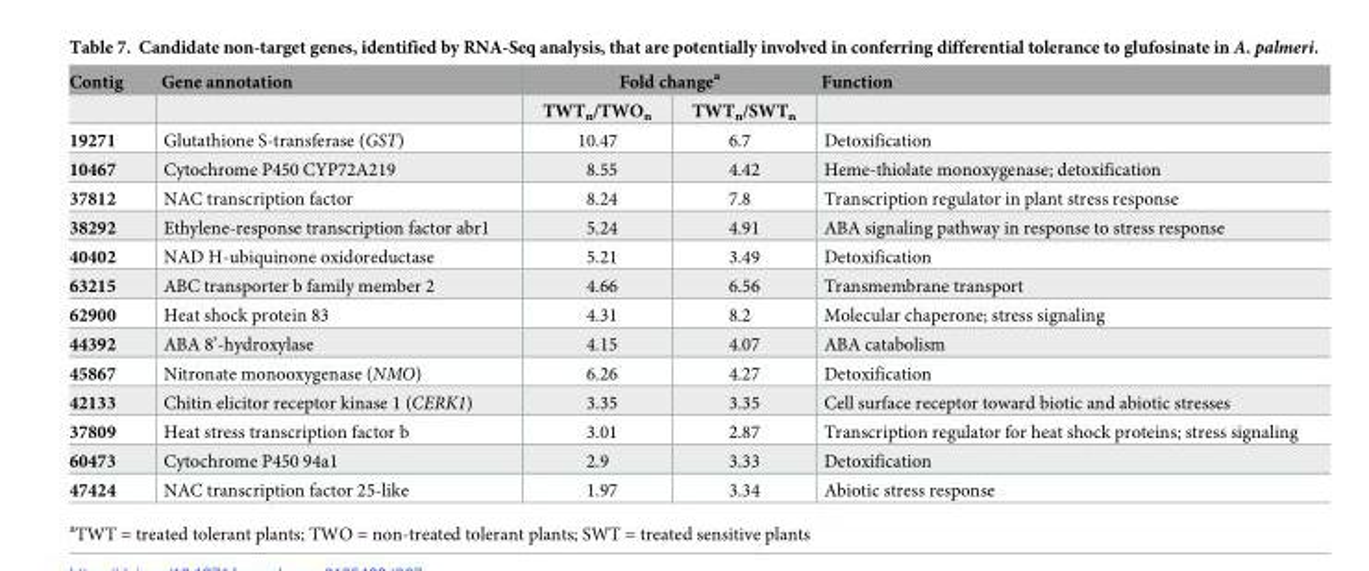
<table><thead><tr><td rowspan="2">Contig</td><td rowspan="2">Gene annotation</td><td colspan="2">Fold change<sup>a</sup></td><td rowspan="2">Function</td></tr><tr><td>TWT<sub>n</sub>/TWO<sub>n</sub></td><td>TWT<sub>n</sub>/SWT<sub>n</sub></td></tr></thead><tbody><tr><td>19271</td><td>Glutathione S-transferase (GST)</td><td>10.47</td><td>6.7</td><td>Detoxification</td></tr><tr><td>10467</td><td>Cytochrome P450 CYP72A219</td><td>8.55</td><td>4.42</td><td>Heme-thiolate monoxygenase; detoxification</td></tr><tr><td>37812</td><td>NAC transcription factor</td><td>8.24</td><td>7.8</td><td>Transcription regulator in plant stress response</td></tr><tr><td>38292</td><td>Ethylene-response transcription factor abr1</td><td>5.24</td><td>4.91</td><td>ABA signaling pathway in response to stress response</td></tr><tr><td>40402</td><td>NAD H-ubiquinone oxidoreductase</td><td>5.21</td><td>3.49</td><td>Detoxification</td></tr><tr><td>63215</td><td>ABC transporter b family member 2</td><td>4.66</td><td>6.56</td><td>Transmembrane transport</td></tr><tr><td>62900</td><td>Heat shock protein 83</td><td>4.31</td><td>8.2</td><td>Molecular chaperone; stress signaling</td></tr><tr><td>44392</td><td>ABA 8’-hydroxylase</td><td>4.15</td><td>4.07</td><td>ABA catabolism</td></tr><tr><td>45867</td><td>Nitronate monooxygenase (NMO)</td><td>6.26</td><td>4.27</td><td>Detoxification</td></tr><tr><td>42133</td><td>Chitin elicitor receptor kinase 1 (CERK1)</td><td>3.35</td><td>3.35</td><td>Cell surface receptor toward biotic and abiotic stresses</td></tr><tr><td>37809</td><td>Heat stress transcription factor b</td><td>3.01</td><td>2.87</td><td>Transcription regulator for heat shock proteins; stress signaling</td></tr><tr><td>60473</td><td>Cytochrome P450 94a1</td><td>2.9</td><td>3.33</td><td>Detoxification</td></tr><tr><td>47424</td><td>NAC transcription factor 25-like</td><td>1.97</td><td>3.34</td><td>Abiotic stress response</td></tr></tbody></table>